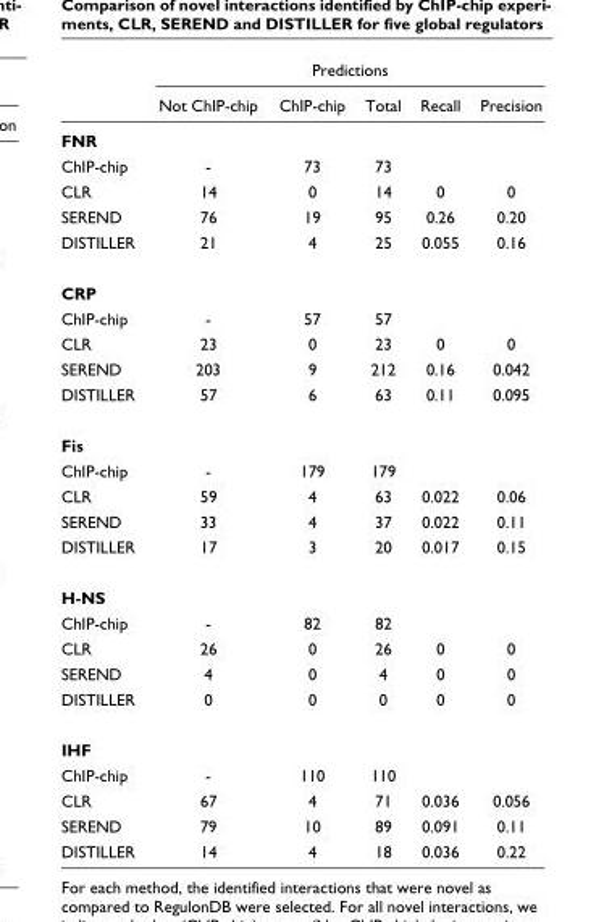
<table><thead><tr><td rowspan="2"></td><td colspan="5">Predictions</td></tr><tr><td>Not ChIP-chip</td><td>ChIP-chip</td><td>Total</td><td>Recall</td><td>Precision</td></tr></thead><tbody><tr><td colspan="6">FNR</td></tr><tr><td>ChIP-chip</td><td>-</td><td>73</td><td>73</td><td></td><td></td></tr><tr><td>CLR</td><td>14</td><td>0</td><td>14</td><td>0</td><td>0</td></tr><tr><td>SEREND</td><td>76</td><td>19</td><td>95</td><td>0.26</td><td>0.20</td></tr><tr><td>DISTILLER</td><td>21</td><td>4</td><td>25</td><td>0.055</td><td>0.16</td></tr><tr><td colspan="6">CRP</td></tr><tr><td>ChIP-chip</td><td>-</td><td>57</td><td>57</td><td></td><td></td></tr><tr><td>CLR</td><td>23</td><td>0</td><td>23</td><td>0</td><td>0</td></tr><tr><td>SEREND</td><td>203</td><td>9</td><td>212</td><td>0.16</td><td>0.042</td></tr><tr><td>DISTILLER</td><td>57</td><td>6</td><td>63</td><td>0.11</td><td>0.095</td></tr><tr><td colspan="6">Fis</td></tr><tr><td>ChIP-chip</td><td>-</td><td>179</td><td>179</td><td></td><td></td></tr><tr><td>CLR</td><td>59</td><td>4</td><td>63</td><td>0.022</td><td>0.06</td></tr><tr><td>SEREND</td><td>33</td><td>4</td><td>37</td><td>0.022</td><td>0.11</td></tr><tr><td>DISTILLER</td><td>17</td><td>3</td><td>20</td><td>0.017</td><td>0.15</td></tr><tr><td colspan="6">H-NS</td></tr><tr><td>ChIP-chip</td><td>-</td><td>82</td><td>82</td><td></td><td></td></tr><tr><td>CLR</td><td>26</td><td>0</td><td>26</td><td>0</td><td>0</td></tr><tr><td>SEREND</td><td>4</td><td>0</td><td>4</td><td>0</td><td>0</td></tr><tr><td>DISTILLER</td><td>0</td><td>0</td><td>0</td><td>0</td><td>0</td></tr><tr><td colspan="6">IHF</td></tr><tr><td>ChIP-chip</td><td>-</td><td>110</td><td>110</td><td></td><td></td></tr><tr><td>CLR</td><td>67</td><td>4</td><td>71</td><td>0.036</td><td>0.056</td></tr><tr><td>SEREND</td><td>79</td><td>10</td><td>89</td><td>0.091</td><td>0.11</td></tr><tr><td>DISTILLER</td><td>14</td><td>4</td><td>18</td><td>0.036</td><td>0.22</td></tr></tbody></table>